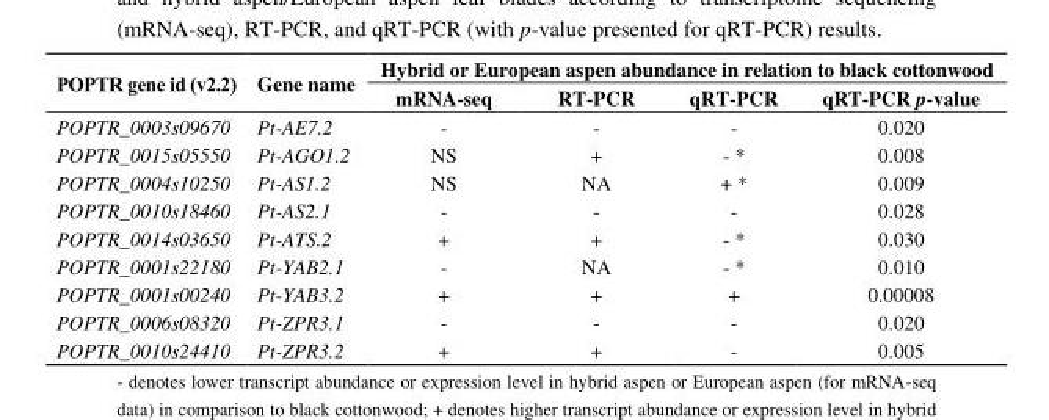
<table><thead><tr><td rowspan="2">POPTR gene id (v2.2)</td><td rowspan="2">Gene name</td><td colspan="4">Hybrid or European aspen abundance in relation to black cottonwood</td></tr><tr><td>mRNA-seq</td><td>RT-PCR</td><td>qRT-PCR</td><td>qRT-PCR p-value</td></tr></thead><tbody><tr><td>POPTR_0003s09670</td><td>Pt-AE7.2</td><td>-</td><td>-</td><td>-</td><td>0.020</td></tr><tr><td>POPTR_0015s05550</td><td>Pt-AGO1.2</td><td>NS</td><td>+</td><td>- *</td><td>0.008</td></tr><tr><td>POPTR_0004s10250</td><td>Pt-AS1.2</td><td>NS</td><td>NA</td><td>+ *</td><td>0.009</td></tr><tr><td>POPTR_0010s18460</td><td>Pt-AS2.1</td><td>-</td><td>-</td><td>-</td><td>0.028</td></tr><tr><td>POPTR_0014s03650</td><td>Pt-ATS.2</td><td>+</td><td>+</td><td>- *</td><td>0.030</td></tr><tr><td>POPTR_0001s22180</td><td>Pt-YAB2.1</td><td>-</td><td>NA</td><td>- *</td><td>0.010</td></tr><tr><td>POPTR_0001s00240</td><td>Pt-YAB3.2</td><td>+</td><td>+</td><td>+</td><td>0.00008</td></tr><tr><td>POPTR_0006s08320</td><td>Pt-ZPR3.1</td><td>-</td><td>-</td><td>-</td><td>0.020</td></tr><tr><td>POPTR_0010s24410</td><td>Pt-ZPR3.2</td><td>+</td><td>+</td><td>-</td><td>0.005</td></tr></tbody></table>